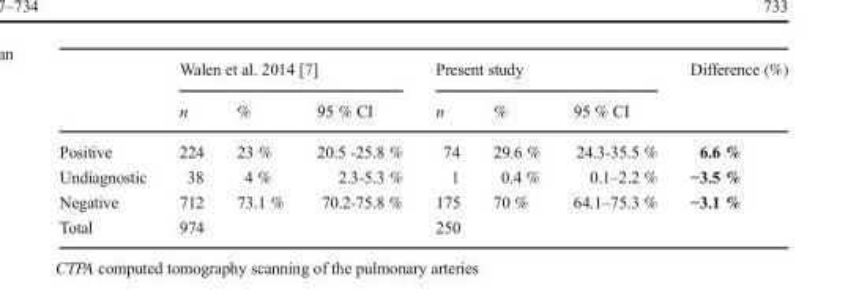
<table><thead><tr><td rowspan="2"></td><td colspan="3">Walen et al. 2014 [7]</td><td colspan="3">Present study</td><td rowspan="2">Difference (%)</td></tr><tr><td>n</td><td>%</td><td>95 % CI</td><td>n</td><td>%</td><td>95 % CI</td></tr></thead><tbody><tr><td>Positive</td><td>224</td><td>23 %</td><td>20.5 -25.8 %</td><td>74</td><td>29.6 %</td><td>24.3-35.5 %</td><td>6.6 %</td></tr><tr><td>Undiagnostic</td><td>38</td><td>4 %</td><td>2.3-5.3 %</td><td>1</td><td>0.4 %</td><td>0.1–2.2 %</td><td>−3.5 %</td></tr><tr><td>Negative</td><td>712</td><td>73.1 %</td><td>70.2-75.8 %</td><td>175</td><td>70 %</td><td>64.1–75.3 %</td><td>−3.1 %</td></tr><tr><td>Total</td><td>974</td><td></td><td></td><td>250</td><td></td><td></td><td></td></tr></tbody></table>